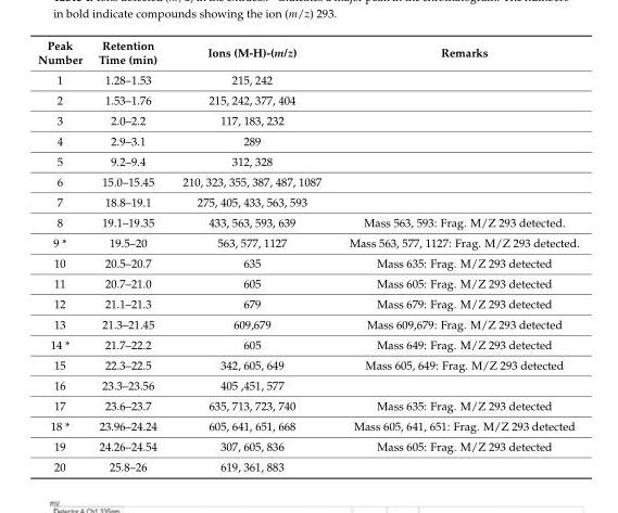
<table><thead><tr><td>Peak Number</td><td>Retention Time (min)</td><td>Ions (M-H)-(m/z)</td><td>Remarks</td></tr></thead><tbody><tr><td>1</td><td>1.28–1.53</td><td>215, 242</td><td></td></tr><tr><td>2</td><td>1.53–1.76</td><td>215, 242, 377, 404</td><td></td></tr><tr><td>3</td><td>2.0–2.2</td><td>117, 183, 232</td><td></td></tr><tr><td>4</td><td>2.9–3.1</td><td>289</td><td></td></tr><tr><td>5</td><td>9.2–9.4</td><td>312, 328</td><td></td></tr><tr><td>6</td><td>15.0–15.45</td><td>210, 323, 355, 387, 487, 1087</td><td></td></tr><tr><td>7</td><td>18.8–19.1</td><td>275, 405, 433, 563, 593</td><td></td></tr><tr><td>8</td><td>19.1–19.35</td><td>433, 563, 593, 639</td><td>Mass 563, 593: Frag. M/Z 293 detected.</td></tr><tr><td>9 *</td><td>19.5–20</td><td>563, 577, 1127</td><td>Mass 563, 577, 1127: Frag. M/Z 293 detected.</td></tr><tr><td>10</td><td>20.5–20.7</td><td>635</td><td>Mass 635: Frag. M/Z 293 detected</td></tr><tr><td>11</td><td>20.7–21.0</td><td>605</td><td>Mass 605: Frag. M/Z 293 detected</td></tr><tr><td>12</td><td>21.1–21.3</td><td>679</td><td>Mass 679: Frag. M/Z 293 detected</td></tr><tr><td>13</td><td>21.3–21.45</td><td>609,679</td><td>Mass 609,679: Frag. M/Z 293 detected</td></tr><tr><td>14 *</td><td>21.7–22.2</td><td>605</td><td>Mass 649: Frag. M/Z 293 detected</td></tr><tr><td>15</td><td>22.3–22.5</td><td>342, 605, 649</td><td>Mass 605, 649: Frag. M/Z 293 detected</td></tr><tr><td>16</td><td>23.3–23.56</td><td>405 ,451, 577</td><td></td></tr><tr><td>17</td><td>23.6–23.7</td><td>635, 713, 723, 740</td><td>Mass 635: Frag. M/Z 293 detected</td></tr><tr><td>18 *</td><td>23.96–24.24</td><td>605, 641, 651, 668</td><td>Mass 605, 641, 651: Frag. M/Z 293 detected</td></tr><tr><td>19</td><td>24.26–24.54</td><td>307, 605, 836</td><td>Mass 605: Frag. M/Z 293 detected</td></tr><tr><td>20</td><td>25.8–26</td><td>619, 361, 883</td><td></td></tr></tbody></table>